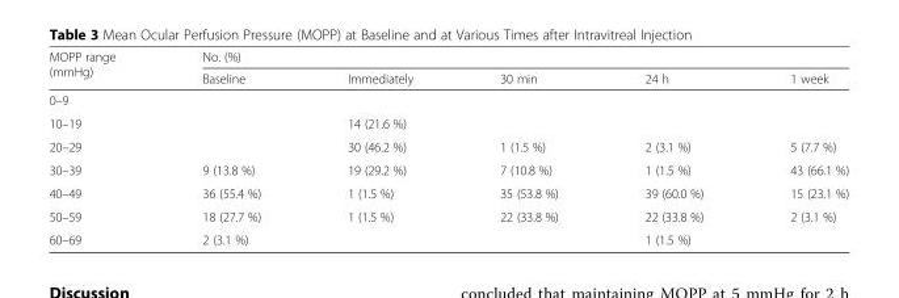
<table><thead><tr><td rowspan="2">MOPP range (mmHg)</td><td colspan="5">No. (%)</td></tr><tr><td>Baseline</td><td>Immediately</td><td>30 min</td><td>24 h</td><td>1 week</td></tr></thead><tbody><tr><td colspan="6">0–9</td></tr><tr><td>10–19</td><td></td><td>14 (21.6 %)</td><td></td><td></td><td></td></tr><tr><td>20–29</td><td></td><td>30 (46.2 %)</td><td>1 (1.5 %)</td><td>2 (3.1 %)</td><td>5 (7.7 %)</td></tr><tr><td>30–39</td><td>9 (13.8 %)</td><td>19 (29.2 %)</td><td>7 (10.8 %)</td><td>1 (1.5 %)</td><td>43 (66.1 %)</td></tr><tr><td>40–49</td><td>36 (55.4 %)</td><td>1 (1.5 %)</td><td>35 (53.8 %)</td><td>39 (60.0 %)</td><td>15 (23.1 %)</td></tr><tr><td>50–59</td><td>18 (27.7 %)</td><td>1 (1.5 %)</td><td>22 (33.8 %)</td><td>22 (33.8 %)</td><td>2 (3.1 %)</td></tr><tr><td>60–69</td><td>2 (3.1 %)</td><td></td><td></td><td>1 (1.5 %)</td><td></td></tr></tbody></table>